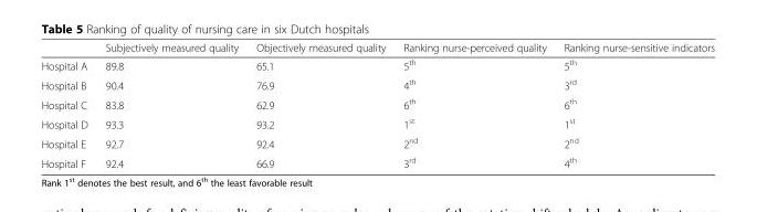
<table><thead><tr><td></td><td>Subjectively measured quality</td><td>Objectively measured quality</td><td>Ranking nurse-perceived quality</td><td>Ranking nurse-sensitive indicators</td></tr></thead><tbody><tr><td>Hospital A</td><td>89.8</td><td>65.1</td><td>5<sup>th</sup></td><td>5<sup>th</sup></td></tr><tr><td>Hospital B</td><td>90.4</td><td>76.9</td><td>4<sup>th</sup></td><td>3<sup>rd</sup></td></tr><tr><td>Hospital C</td><td>83.8</td><td>62.9</td><td>6<sup>th</sup></td><td>6<sup>th</sup></td></tr><tr><td>Hospital D</td><td>93.3</td><td>93.2</td><td>1<sup>st</sup></td><td>1<sup>st</sup></td></tr><tr><td>Hospital E</td><td>92.7</td><td>92.4</td><td>2<sup>nd</sup></td><td>2<sup>nd</sup></td></tr><tr><td>Hospital F</td><td>92.4</td><td>66.9</td><td>3<sup>rd</sup></td><td>4<sup>th</sup></td></tr></tbody></table>